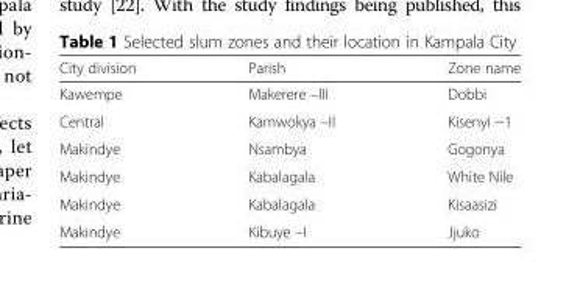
<table><thead><tr><td>City division</td><td>Parish</td><td>Zone name</td></tr></thead><tbody><tr><td>Kawempe</td><td>Makerere –III</td><td>Dobbi</td></tr><tr><td>Central</td><td>Kamwokya –II</td><td>Kisenyi −1</td></tr><tr><td>Makindye</td><td>Nsambya</td><td>Gogonya</td></tr><tr><td>Makindye</td><td>Kabalagala</td><td>White Nile</td></tr><tr><td>Makindye</td><td>Kabalagala</td><td>Kisaasizi</td></tr><tr><td>Makindye</td><td>Kibuye –I</td><td>Jjuko</td></tr></tbody></table>